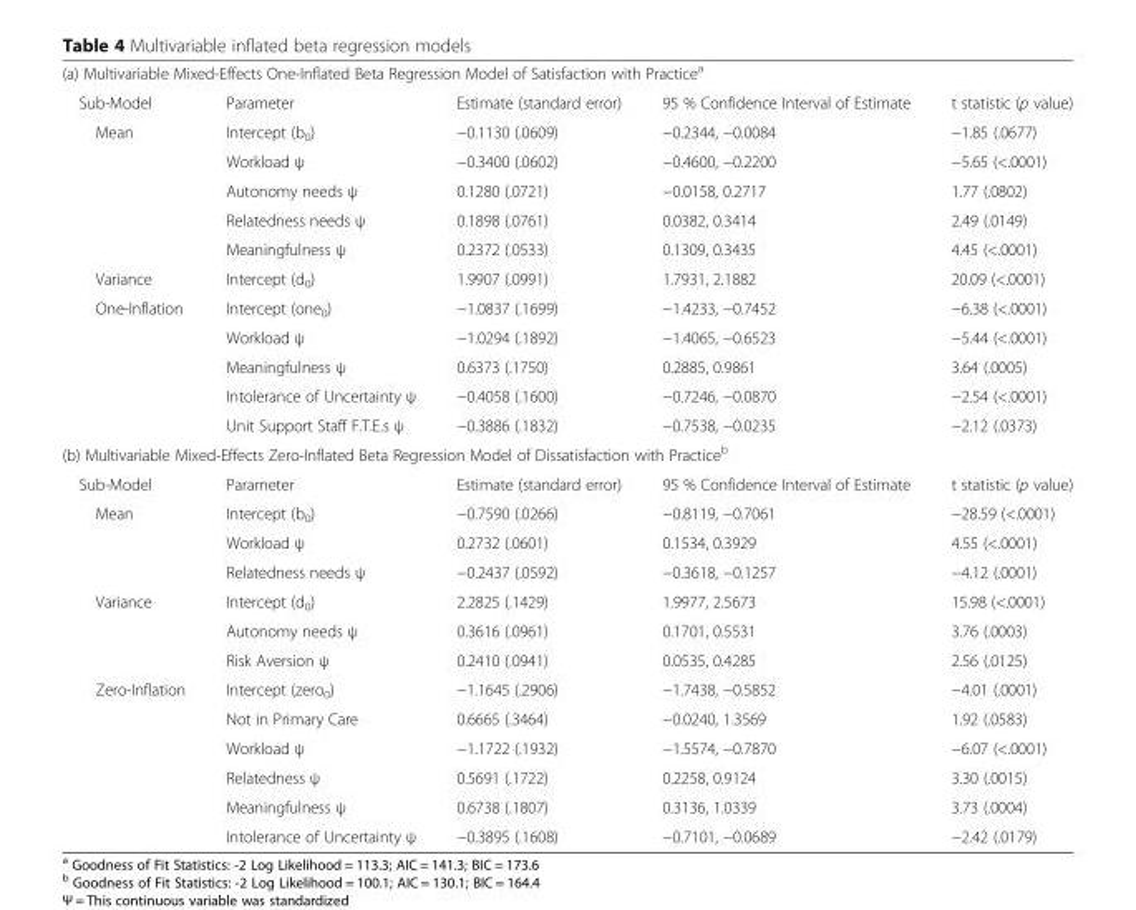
<table><tbody><tr><td colspan="5">(a) Multivariable Mixed-Effects One-Inflated Beta Regression Model of Satisfaction with Practice<sup>a</sup></td></tr><tr><td>Sub-Model</td><td>Parameter</td><td>Estimate (standard error)</td><td>95 % Confidence Interval of Estimate</td><td>t statistic (p value)</td></tr><tr><td rowspan="5">Mean</td><td>Intercept (b<sub>0</sub>)</td><td>−0.1130 (.0609)</td><td>−0.2344, −0.0084</td><td>−1.85 (.0677)</td></tr><tr><td>Workload ψ</td><td>−0.3400 (.0602)</td><td>−0.4600, −0.2200</td><td>−5.65 (&lt;.0001)</td></tr><tr><td>Autonomy needs ψ</td><td>0.1280 (.0721)</td><td>−0.0158, 0.2717</td><td>1.77 (.0802)</td></tr><tr><td>Relatedness needs ψ</td><td>0.1898 (.0761)</td><td>0.0382, 0.3414</td><td>2.49 (.0149)</td></tr><tr><td>Meaningfulness ψ</td><td>0.2372 (.0533)</td><td>0.1309, 0.3435</td><td>4.45 (&lt;.0001)</td></tr><tr><td>Variance</td><td>Intercept (d<sub>0</sub>)</td><td>1.9907 (.0991)</td><td>1.7931, 2.1882</td><td>20.09 (&lt;.0001)</td></tr><tr><td rowspan="5">One-Inflation</td><td>Intercept (one<sub>0</sub>)</td><td>−1.0837 (.1699)</td><td>−1.4233, −0.7452</td><td>−6.38 (&lt;.0001)</td></tr><tr><td>Workload ψ</td><td>−1.0294 (.1892)</td><td>−1.4065, −0.6523</td><td>−5.44 (&lt;.0001)</td></tr><tr><td>Meaningfulness ψ</td><td>0.6373 (.1750)</td><td>0.2885, 0.9861</td><td>3.64 (.0005)</td></tr><tr><td>Intolerance of Uncertainty ψ</td><td>−0.4058 (.1600)</td><td>−0.7246, −0.0870</td><td>−2.54 (&lt;.0001)</td></tr><tr><td>Unit Support Staff F.T.E.s ψ</td><td>−0.3886 (.1832)</td><td>−0.7538, −0.0235</td><td>−2.12 (.0373)</td></tr><tr><td colspan="5">(b) Multivariable Mixed-Effects Zero-Inflated Beta Regression Model of Dissatisfaction with Practice<sup>b</sup></td></tr><tr><td>Sub-Model</td><td>Parameter</td><td>Estimate (standard error)</td><td>95 % Confidence Interval of Estimate</td><td>t statistic (p value)</td></tr><tr><td rowspan="3">Mean</td><td>Intercept (b<sub>0</sub>)</td><td>−0.7590 (.0266)</td><td>−0.8119, −0.7061</td><td>−28.59 (&lt;.0001)</td></tr><tr><td>Workload ψ</td><td>0.2732 (.0601)</td><td>0.1534, 0.3929</td><td>4.55 (&lt;.0001)</td></tr><tr><td>Relatedness needs ψ</td><td>−0.2437 (.0592)</td><td>−0.3618, −0.1257</td><td>−4.12 (.0001)</td></tr><tr><td rowspan="3">Variance</td><td>Intercept (d<sub>0</sub>)</td><td>2.2825 (.1429)</td><td>1.9977, 2.5673</td><td>15.98 (&lt;.0001)</td></tr><tr><td>Autonomy needs ψ</td><td>0.3616 (.0961)</td><td>0.1701, 0.5531</td><td>3.76 (.0003)</td></tr><tr><td>Risk Aversion ψ</td><td>0.2410 (.0941)</td><td>0.0535, 0.4285</td><td>2.56 (.0125)</td></tr><tr><td rowspan="6">Zero-Inflation</td><td>Intercept (zero<sub>0</sub>)</td><td>−1.1645 (.2906)</td><td>−1.7438, −0.5852</td><td>−4.01 (.0001)</td></tr><tr><td>Not in Primary Care</td><td>0.6665 (.3464)</td><td>−0.0240, 1.3569</td><td>1.92 (.0583)</td></tr><tr><td>Workload ψ</td><td>−1.1722 (.1932)</td><td>−1.5574, −0.7870</td><td>−6.07 (&lt;.0001)</td></tr><tr><td>Relatedness ψ</td><td>0.5691 (.1722)</td><td>0.2258, 0.9124</td><td>3.30 (.0015)</td></tr><tr><td>Meaningfulness ψ</td><td>0.6738 (.1807)</td><td>0.3136, 1.0339</td><td>3.73 (.0004)</td></tr><tr><td>Intolerance of Uncertainty ψ</td><td>−0.3895 (.1608)</td><td>−0.7101, −0.0689</td><td>−2.42 (.0179)</td></tr></tbody></table>